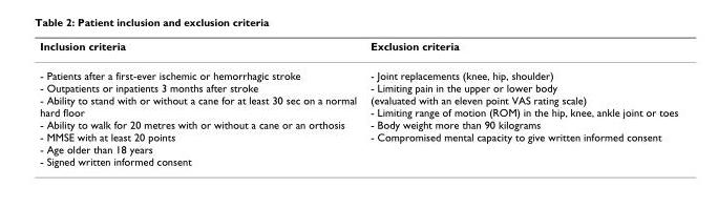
<table><thead><tr><td>Inclusion criteria</td><td>Exclusion criteria</td></tr></thead><tbody><tr><td>- Patients after a first-ever ischemic or hemorrhagic stroke - Outpatients or inpatients 3 months after stroke - Ability to stand with or without a cane for at least 30 sec on a normal hard floor - Ability to walk for 20 metres with or without a cane or an orthosis - MMSE with at least 20 points - Age older than 18 years - Signed written informed consent</td><td>- Joint replacements (knee, hip, shoulder) - Limiting pain in the upper or lower body (evaluated with an eleven point VAS rating scale) - Limiting range of motion (ROM) in the hip, knee, ankle joint or toes - Body weight more than 90 kilograms - Compromised mental capacity to give written informed consent</td></tr></tbody></table>